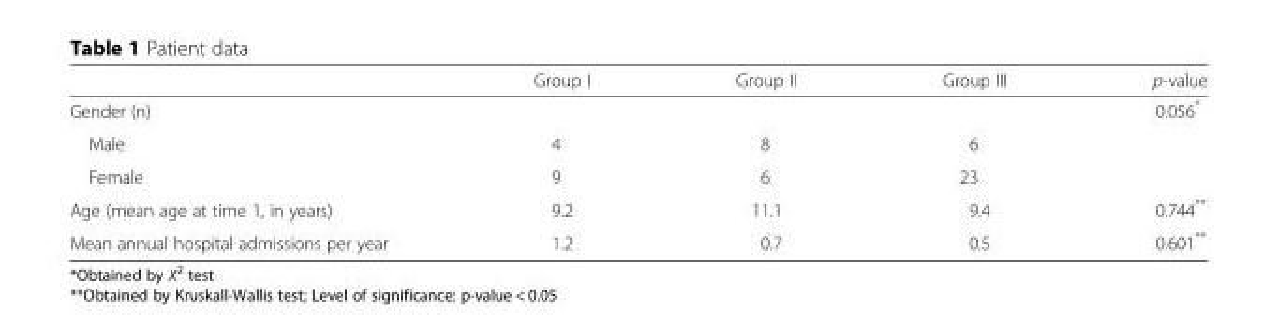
<table><thead><tr><td></td><td>Group I</td><td>Group II</td><td>Group III</td><td>p-value</td></tr></thead><tbody><tr><td>Gender (n)</td><td></td><td></td><td></td><td>0.056*</td></tr><tr><td>Male</td><td>4</td><td>8</td><td>6</td><td></td></tr><tr><td>Female</td><td>9</td><td>6</td><td>23</td><td></td></tr><tr><td>Age (mean age at time 1, in years)</td><td>9.2</td><td>11.1</td><td>9.4</td><td>0.744**</td></tr><tr><td>Mean annual hospital admissions per year</td><td>1.2</td><td>0.7</td><td>0.5</td><td>0.601**</td></tr></tbody></table>